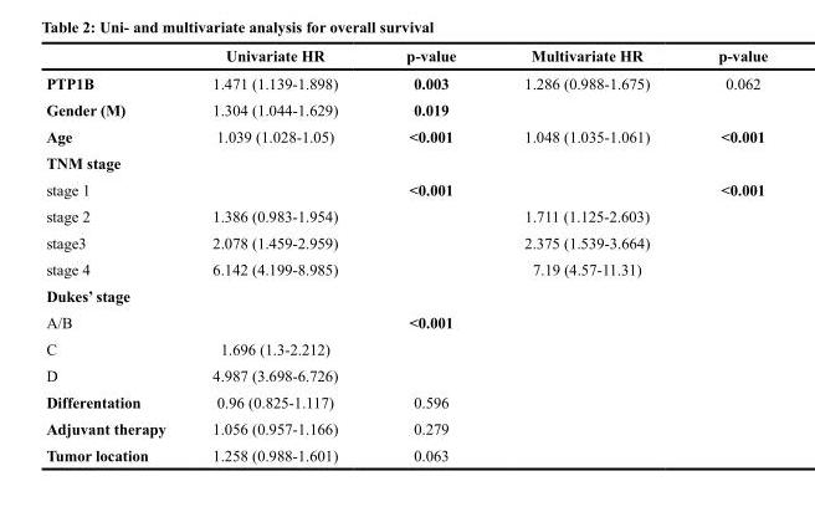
<table><thead><tr><td></td><td>Univariate HR</td><td>p-value</td><td>Multivariate HR</td><td>p-value</td></tr></thead><tbody><tr><td>PTP1B</td><td>1.471 (1.139-1.898)</td><td>0.003</td><td>1.286 (0.988-1.675)</td><td>0.062</td></tr><tr><td>Gender (M)</td><td>1.304 (1.044-1.629)</td><td>0.019</td><td></td><td></td></tr><tr><td>Age</td><td>1.039 (1.028-1.05)</td><td>&lt;0.001</td><td>1.048 (1.035-1.061)</td><td>&lt;0.001</td></tr><tr><td colspan="5">TNM stage</td></tr><tr><td>stage 1</td><td></td><td>&lt;0.001</td><td></td><td>&lt;0.001</td></tr><tr><td>stage 2</td><td>1.386 (0.983-1.954)</td><td></td><td>1.711 (1.125-2.603)</td><td></td></tr><tr><td>stage3</td><td>2.078 (1.459-2.959)</td><td></td><td>2.375 (1.539-3.664)</td><td></td></tr><tr><td>stage 4</td><td>6.142 (4.199-8.985)</td><td></td><td>7.19 (4.57-11.31)</td><td></td></tr><tr><td colspan="5">Dukes’ stage</td></tr><tr><td>A/B</td><td></td><td>&lt;0.001</td><td></td><td></td></tr><tr><td>C</td><td>1.696 (1.3-2.212)</td><td></td><td></td><td></td></tr><tr><td>D</td><td>4.987 (3.698-6.726)</td><td></td><td></td><td></td></tr><tr><td>Differentation</td><td>0.96 (0.825-1.117)</td><td>0.596</td><td></td><td></td></tr><tr><td>Adjuvant therapy</td><td>1.056 (0.957-1.166)</td><td>0.279</td><td></td><td></td></tr><tr><td>Tumor location</td><td>1.258 (0.988-1.601)</td><td>0.063</td><td></td><td></td></tr></tbody></table>